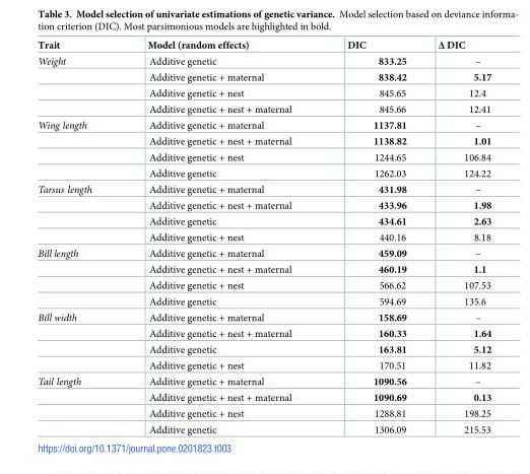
<table><thead><tr><td>Trait</td><td>Model (random effects)</td><td>DIC</td><td>Δ DIC</td></tr></thead><tbody><tr><td rowspan="4">Weight</td><td>Additive genetic</td><td>833.25</td><td>–</td></tr><tr><td>Additive genetic + maternal</td><td>838.42</td><td>5.17</td></tr><tr><td>Additive genetic + nest</td><td>845.65</td><td>12.4</td></tr><tr><td>Additive genetic + nest + maternal</td><td>845.66</td><td>12.41</td></tr><tr><td rowspan="4">Wing length</td><td>Additive genetic + maternal</td><td>1137.81</td><td>–</td></tr><tr><td>Additive genetic + nest + maternal</td><td>1138.82</td><td>1.01</td></tr><tr><td>Additive genetic + nest</td><td>1244.65</td><td>106.84</td></tr><tr><td>Additive genetic</td><td>1262.03</td><td>124.22</td></tr><tr><td rowspan="4">Tarsus length</td><td>Additive genetic + maternal</td><td>431.98</td><td>–</td></tr><tr><td>Additive genetic + nest + maternal</td><td>433.96</td><td>1.98</td></tr><tr><td>Additive genetic</td><td>434.61</td><td>2.63</td></tr><tr><td>Additive genetic + nest</td><td>440.16</td><td>8.18</td></tr><tr><td rowspan="4">Bill length</td><td>Additive genetic + maternal</td><td>459.09</td><td>–</td></tr><tr><td>Additive genetic + nest + maternal</td><td>460.19</td><td>1.1</td></tr><tr><td>Additive genetic + nest</td><td>566.62</td><td>107.53</td></tr><tr><td>Additive genetic</td><td>594.69</td><td>135.6</td></tr><tr><td rowspan="4">Bill width</td><td>Additive genetic + maternal</td><td>158.69</td><td>–</td></tr><tr><td>Additive genetic + nest + maternal</td><td>160.33</td><td>1.64</td></tr><tr><td>Additive genetic</td><td>163.81</td><td>5.12</td></tr><tr><td>Additive genetic + nest</td><td>170.51</td><td>11.82</td></tr><tr><td rowspan="4">Tail length</td><td>Additive genetic + maternal</td><td>1090.56</td><td>–</td></tr><tr><td>Additive genetic + nest + maternal</td><td>1090.69</td><td>0.13</td></tr><tr><td>Additive genetic + nest</td><td>1288.81</td><td>198.25</td></tr><tr><td>Additive genetic</td><td>1306.09</td><td>215.53</td></tr></tbody></table>